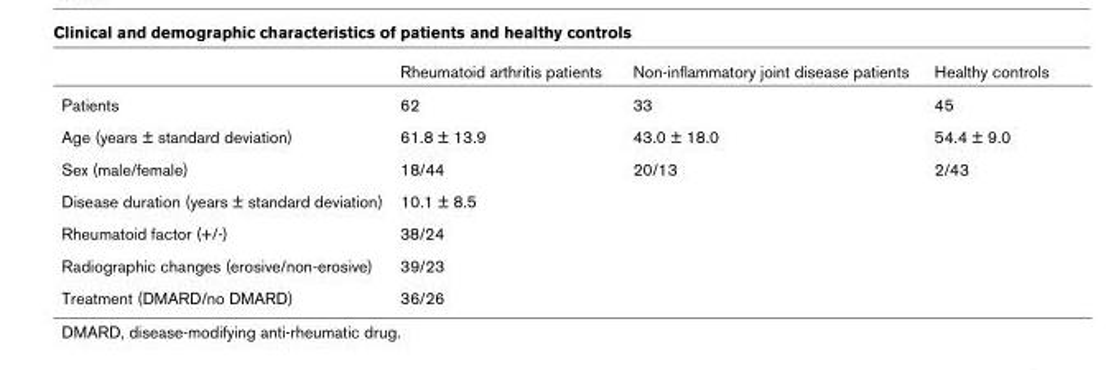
<table><thead><tr><td></td><td>Rheumatoid arthritis patients</td><td>Non-inflammatory joint disease patients</td><td>Healthy controls</td></tr></thead><tbody><tr><td>Patients</td><td>62</td><td>33</td><td>45</td></tr><tr><td>Age (years ± standard deviation)</td><td>61.8 ± 13.9</td><td>43.0 ± 18.0</td><td>54.4 ± 9.0</td></tr><tr><td>Sex (male/female)</td><td>18/44</td><td>20/13</td><td>2/43</td></tr><tr><td>Disease duration (years ± standard deviation)</td><td>10.1 ± 8.5</td><td></td><td></td></tr><tr><td>Rheumatoid factor (+/-)</td><td>38/24</td><td></td><td></td></tr><tr><td>Radiographic changes (erosive/non-erosive)</td><td>39/23</td><td></td><td></td></tr><tr><td>Treatment (DMARD/no DMARD)</td><td>36/26</td><td></td><td></td></tr></tbody></table>